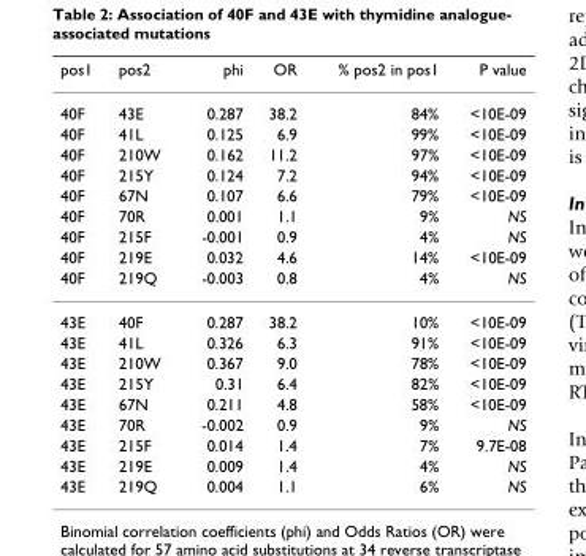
<table><thead><tr><td>pos1</td><td>pos2</td><td>phi</td><td>OR</td><td>% pos2 in pos1</td><td>P value</td></tr></thead><tbody><tr><td>40F</td><td>43E</td><td>0.287</td><td>38.2</td><td>84%</td><td>&lt;10E-09</td></tr><tr><td>40F</td><td>41L</td><td>0.125</td><td>6.9</td><td>99%</td><td>&lt;10E-09</td></tr><tr><td>40F</td><td>210W</td><td>0.162</td><td>11.2</td><td>97%</td><td>&lt;10E-09</td></tr><tr><td>40F</td><td>215Y</td><td>0.124</td><td>7.2</td><td>94%</td><td>&lt;10E-09</td></tr><tr><td>40F</td><td>67N</td><td>0.107</td><td>6.6</td><td>79%</td><td>&lt;10E-09</td></tr><tr><td>40F</td><td>70R</td><td>0.001</td><td>1.1</td><td>9%</td><td>NS</td></tr><tr><td>40F</td><td>215F</td><td>-0.001</td><td>0.9</td><td>4%</td><td>NS</td></tr><tr><td>40F</td><td>219E</td><td>0.032</td><td>4.6</td><td>14%</td><td>&lt;10E-09</td></tr><tr><td>40F</td><td>219Q</td><td>-0.003</td><td>0.8</td><td>4%</td><td>NS</td></tr><tr><td>43E</td><td>40F</td><td>0.287</td><td>38.2</td><td>10%</td><td>&lt;10E-09</td></tr><tr><td>43E</td><td>41L</td><td>0.326</td><td>6.3</td><td>91%</td><td>&lt;10E-09</td></tr><tr><td>43E</td><td>210W</td><td>0.367</td><td>9.0</td><td>78%</td><td>&lt;10E-09</td></tr><tr><td>43E</td><td>215Y</td><td>0.31</td><td>6.4</td><td>82%</td><td>&lt;10E-09</td></tr><tr><td>43E</td><td>67N</td><td>0.211</td><td>4.8</td><td>58%</td><td>&lt;10E-09</td></tr><tr><td>43E</td><td>70R</td><td>-0.002</td><td>0.9</td><td>9%</td><td>NS</td></tr><tr><td>43E</td><td>215F</td><td>0.014</td><td>1.4</td><td>7%</td><td>9.7E-08</td></tr><tr><td>43E</td><td>219E</td><td>0.009</td><td>1.4</td><td>4%</td><td>NS</td></tr><tr><td>43E</td><td>219Q</td><td>0.004</td><td>1.1</td><td>6%</td><td>NS</td></tr></tbody></table>